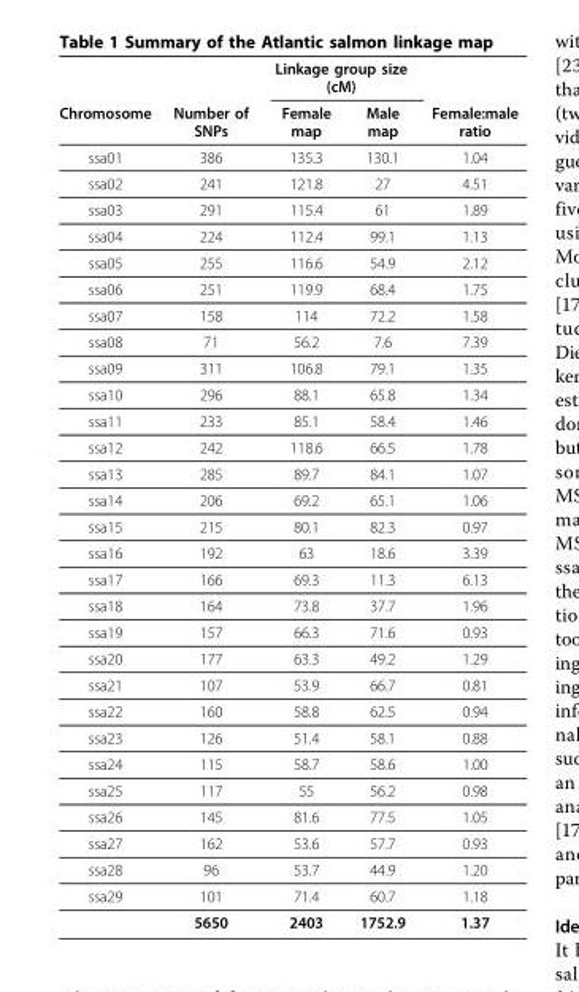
<table><thead><tr><td rowspan="2">Chromosome</td><td rowspan="2">Number of SNPs</td><td colspan="2">Linkage group size (cM)</td><td rowspan="2">Female:male ratio</td></tr><tr><td>Female map</td><td>Male map</td></tr></thead><tbody><tr><td>ssa01</td><td>386</td><td>135.3</td><td>130.1</td><td>1.04</td></tr><tr><td>ssa02</td><td>241</td><td>121.8</td><td>27</td><td>4.51</td></tr><tr><td>ssa03</td><td>291</td><td>115.4</td><td>61</td><td>1.89</td></tr><tr><td>ssa04</td><td>224</td><td>112.4</td><td>99.1</td><td>1.13</td></tr><tr><td>ssa05</td><td>255</td><td>116.6</td><td>54.9</td><td>2.12</td></tr><tr><td>ssa06</td><td>251</td><td>119.9</td><td>68.4</td><td>1.75</td></tr><tr><td>ssa07</td><td>158</td><td>114</td><td>72.2</td><td>1.58</td></tr><tr><td>ssa08</td><td>71</td><td>56.2</td><td>7.6</td><td>7.39</td></tr><tr><td>ssa09</td><td>311</td><td>106.8</td><td>79.1</td><td>1.35</td></tr><tr><td>ssa10</td><td>296</td><td>88.1</td><td>65.8</td><td>1.34</td></tr><tr><td>ssa11</td><td>233</td><td>85.1</td><td>58.4</td><td>1.46</td></tr><tr><td>ssa12</td><td>242</td><td>118.6</td><td>66.5</td><td>1.78</td></tr><tr><td>ssa13</td><td>285</td><td>89.7</td><td>84.1</td><td>1.07</td></tr><tr><td>ssa14</td><td>206</td><td>69.2</td><td>65.1</td><td>1.06</td></tr><tr><td>ssa15</td><td>215</td><td>80.1</td><td>82.3</td><td>0.97</td></tr><tr><td>ssa16</td><td>192</td><td>63</td><td>18.6</td><td>3.39</td></tr><tr><td>ssa17</td><td>166</td><td>69.3</td><td>11.3</td><td>6.13</td></tr><tr><td>ssa18</td><td>164</td><td>73.8</td><td>37.7</td><td>1.96</td></tr><tr><td>ssa19</td><td>157</td><td>66.3</td><td>71.6</td><td>0.93</td></tr><tr><td>ssa20</td><td>177</td><td>63.3</td><td>49.2</td><td>1.29</td></tr><tr><td>ssa21</td><td>107</td><td>53.9</td><td>66.7</td><td>0.81</td></tr><tr><td>ssa22</td><td>160</td><td>58.8</td><td>62.5</td><td>0.94</td></tr><tr><td>ssa23</td><td>126</td><td>51.4</td><td>58.1</td><td>0.88</td></tr><tr><td>ssa24</td><td>115</td><td>58.7</td><td>58.6</td><td>1.00</td></tr><tr><td>ssa25</td><td>117</td><td>55</td><td>56.2</td><td>0.98</td></tr><tr><td>ssa26</td><td>145</td><td>81.6</td><td>77.5</td><td>1.05</td></tr><tr><td>ssa27</td><td>162</td><td>53.6</td><td>57.7</td><td>0.93</td></tr><tr><td>ssa28</td><td>96</td><td>53.7</td><td>44.9</td><td>1.20</td></tr><tr><td rowspan="2">ssa29</td><td>101</td><td>71.4</td><td>60.7</td><td>1.18</td></tr><tr><td>5650</td><td>2403</td><td>1752.9</td><td>1.37</td></tr></tbody></table>